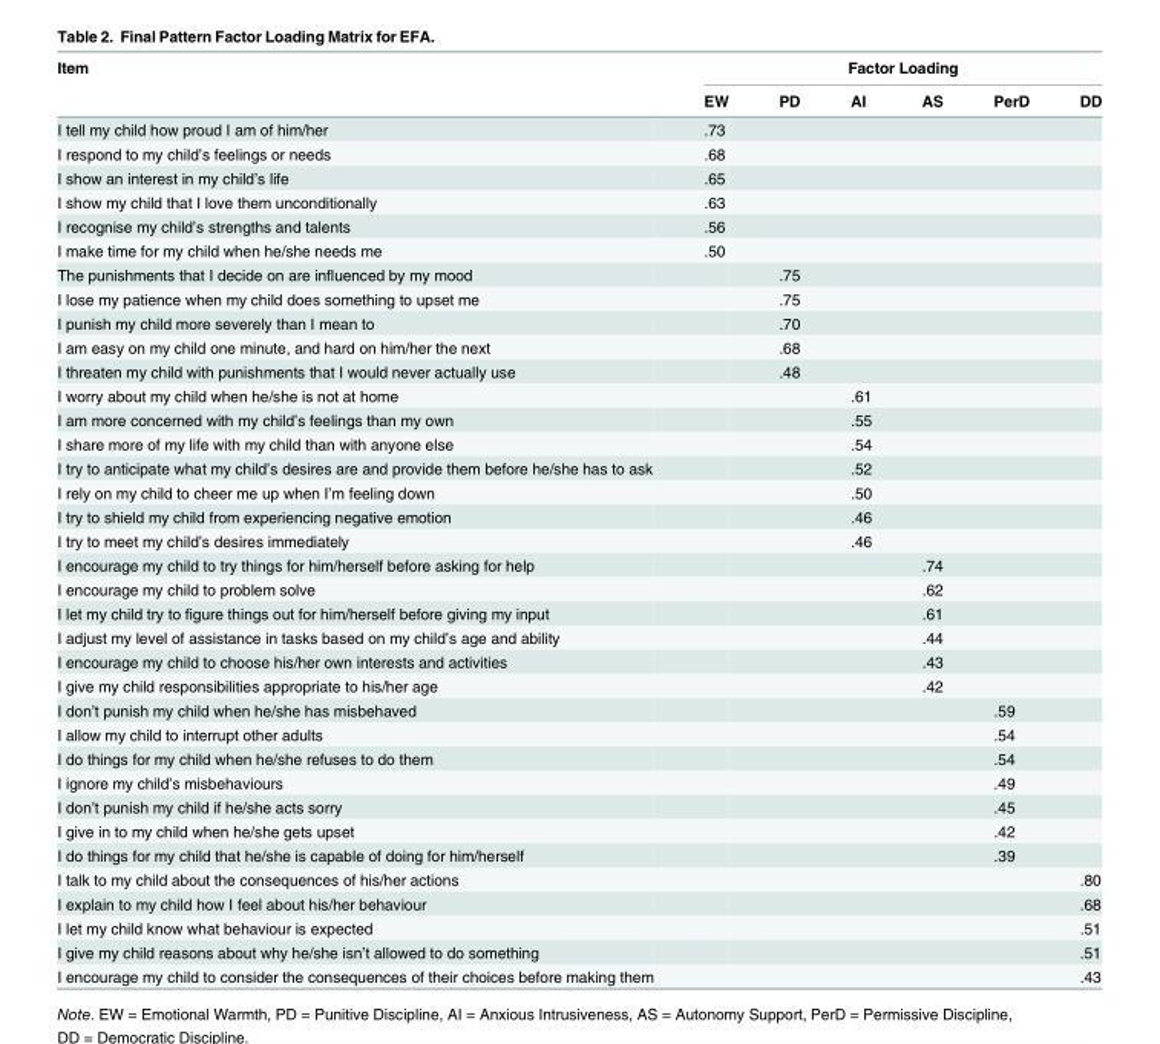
<table><thead><tr><td rowspan="2">Item</td><td colspan="6">Factor Loading</td></tr><tr><td>EW</td><td>PD</td><td>AI</td><td>AS</td><td>PerD</td><td>DD</td></tr></thead><tbody><tr><td>I tell my child how proud I am of him/her</td><td>.73</td><td></td><td></td><td></td><td></td><td></td></tr><tr><td>I respond to my child’s feelings or needs</td><td>.68</td><td></td><td></td><td></td><td></td><td></td></tr><tr><td>I show an interest in my child’s life</td><td>.65</td><td></td><td></td><td></td><td></td><td></td></tr><tr><td>I show my child that I love them unconditionally</td><td>.63</td><td></td><td></td><td></td><td></td><td></td></tr><tr><td>I recognise my child’s strengths and talents</td><td>.56</td><td></td><td></td><td></td><td></td><td></td></tr><tr><td>I make time for my child when he/she needs me</td><td>.50</td><td></td><td></td><td></td><td></td><td></td></tr><tr><td>The punishments that I decide on are influenced by my mood</td><td></td><td>.75</td><td></td><td></td><td></td><td></td></tr><tr><td>I lose my patience when my child does something to upset me</td><td></td><td>.75</td><td></td><td></td><td></td><td></td></tr><tr><td>I punish my child more severely than I mean to</td><td></td><td>.70</td><td></td><td></td><td></td><td></td></tr><tr><td>I am easy on my child one minute, and hard on him/her the next</td><td></td><td>.68</td><td></td><td></td><td></td><td></td></tr><tr><td>I threaten my child with punishments that I would never actually use</td><td></td><td>.48</td><td></td><td></td><td></td><td></td></tr><tr><td>I worry about my child when he/she is not at home</td><td></td><td></td><td>.61</td><td></td><td></td><td></td></tr><tr><td>I am more concerned with my child’s feelings than my own</td><td></td><td></td><td>.55</td><td></td><td></td><td></td></tr><tr><td>I share more of my life with my child than with anyone else</td><td></td><td></td><td>.54</td><td></td><td></td><td></td></tr><tr><td>I try to anticipate what my child’s desires are and provide them before he/she has to ask</td><td></td><td></td><td>.52</td><td></td><td></td><td></td></tr><tr><td>I rely on my child to cheer me up when I’m feeling down</td><td></td><td></td><td>.50</td><td></td><td></td><td></td></tr><tr><td>I try to shield my child from experiencing negative emotion</td><td></td><td></td><td>.46</td><td></td><td></td><td></td></tr><tr><td>I try to meet my child’s desires immediately</td><td></td><td></td><td>.46</td><td></td><td></td><td></td></tr><tr><td>I encourage my child to try things for him/herself before asking for help</td><td></td><td></td><td></td><td>.74</td><td></td><td></td></tr><tr><td>I encourage my child to problem solve</td><td></td><td></td><td></td><td>.62</td><td></td><td></td></tr><tr><td>I let my child try to figure things out for him/herself before giving my input</td><td></td><td></td><td></td><td>.61</td><td></td><td></td></tr><tr><td>I adjust my level of assistance in tasks based on my child’s age and ability</td><td></td><td></td><td></td><td>.44</td><td></td><td></td></tr><tr><td>I encourage my child to choose his/her own interests and activities</td><td></td><td></td><td></td><td>.43</td><td></td><td></td></tr><tr><td>I give my child responsibilities appropriate to his/her age</td><td></td><td></td><td></td><td>.42</td><td></td><td></td></tr><tr><td>I don’t punish my child when he/she has misbehaved</td><td></td><td></td><td></td><td></td><td>.59</td><td></td></tr><tr><td>I allow my child to interrupt other adults</td><td></td><td></td><td></td><td></td><td>.54</td><td></td></tr><tr><td>I do things for my child when he/she refuses to do them</td><td></td><td></td><td></td><td></td><td>.54</td><td></td></tr><tr><td>I ignore my child’s misbehaviours</td><td></td><td></td><td></td><td></td><td>.49</td><td></td></tr><tr><td>I don’t punish my child if he/she acts sorry</td><td></td><td></td><td></td><td></td><td>.45</td><td></td></tr><tr><td>I give in to my child when he/she gets upset</td><td></td><td></td><td></td><td></td><td>.42</td><td></td></tr><tr><td>I do things for my child that he/she is capable of doing for him/herself</td><td></td><td></td><td></td><td></td><td>.39</td><td></td></tr><tr><td>I talk to my child about the consequences of his/her actions</td><td></td><td></td><td></td><td></td><td></td><td>.80</td></tr><tr><td>I explain to my child how I feel about his/her behaviour</td><td></td><td></td><td></td><td></td><td></td><td>.68</td></tr><tr><td>I let my child know what behaviour is expected</td><td></td><td></td><td></td><td></td><td></td><td>.51</td></tr><tr><td>I give my child reasons about why he/she isn’t allowed to do something</td><td></td><td></td><td></td><td></td><td></td><td>.51</td></tr><tr><td>I encourage my child to consider the consequences of their choices before making them</td><td></td><td></td><td></td><td></td><td></td><td>.43</td></tr></tbody></table>